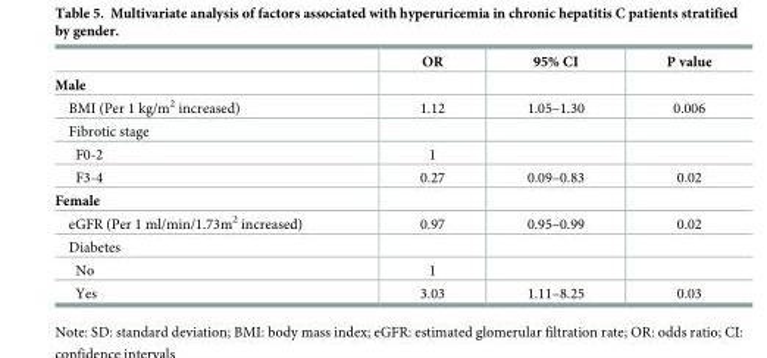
<table><thead><tr><td></td><td>OR</td><td>95% CI</td><td>P value</td></tr></thead><tbody><tr><td colspan="4">Male</td></tr><tr><td>BMI (Per 1 kg/m<sup>2</sup> increased)</td><td>1.12</td><td>1.05–1.30</td><td>0.006</td></tr><tr><td colspan="4">Fibrotic stage</td></tr><tr><td>F0-2</td><td>1</td><td></td><td></td></tr><tr><td>F3-4</td><td>0.27</td><td>0.09–0.83</td><td>0.02</td></tr><tr><td colspan="4">Female</td></tr><tr><td>eGFR (Per 1 ml/min/1.73m<sup>2</sup> increased)</td><td>0.97</td><td>0.95–0.99</td><td>0.02</td></tr><tr><td colspan="4">Diabetes</td></tr><tr><td>No</td><td>1</td><td></td><td></td></tr><tr><td>Yes</td><td>3.03</td><td>1.11–8.25</td><td>0.03</td></tr></tbody></table>